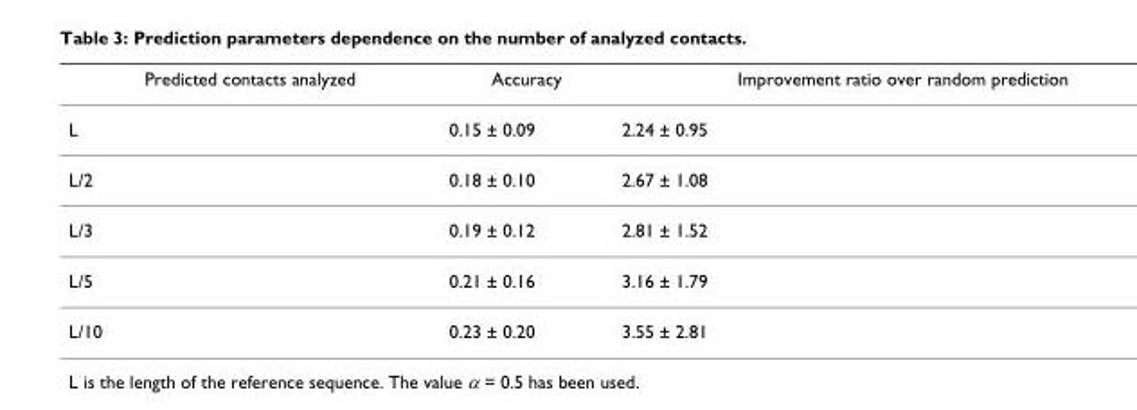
<table><thead><tr><td>Predicted contacts analyzed</td><td>Accuracy</td><td>Improvement ratio over random prediction</td></tr></thead><tbody><tr><td>L</td><td>0.15 ± 0.09</td><td>2.24 ± 0.95</td></tr><tr><td>L/2</td><td>0.18 ± 0.10</td><td>2.67 ± 1.08</td></tr><tr><td>L/3</td><td>0.19 ± 0.12</td><td>2.81 ± 1.52</td></tr><tr><td>L/5</td><td>0.21 ± 0.16</td><td>3.16 ± 1.79</td></tr><tr><td>L/10</td><td>0.23 ± 0.20</td><td>3.55 ± 2.81</td></tr></tbody></table>